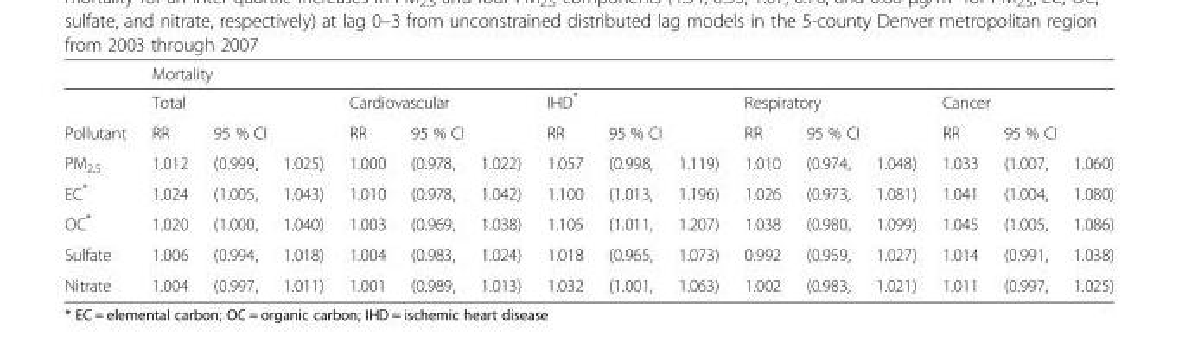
<table><thead><tr><td rowspan="4">Pollutant PM<sub>2.5</sub></td><td colspan="15">Mortality</td></tr><tr><td colspan="3">Total</td><td colspan="3">Cardiovascular</td><td colspan="3">IHD*</td><td colspan="3">Respiratory</td><td colspan="3">Cancer</td></tr><tr><td rowspan="2">RR 1.012</td><td colspan="2">95 % CI</td><td rowspan="2">RR 1.000</td><td colspan="2">95 % CI</td><td rowspan="2">RR 1.057</td><td colspan="2">95 % CI</td><td rowspan="2">RR 1.010</td><td colspan="2">95 % CI</td><td rowspan="2">RR 1.033</td><td colspan="2">95 % CI</td></tr><tr><td>(0.999,</td><td>1.025)</td><td>(0.978,</td><td>1.022)</td><td>(0.998,</td><td>1.119)</td><td>(0.974,</td><td>1.048)</td><td>(1.007,</td><td>1.060)</td></tr></thead><tbody><tr><td>EC*</td><td>1.024</td><td>(1.005,</td><td>1.043)</td><td>1.010</td><td>(0.978,</td><td>1.042)</td><td>1.100</td><td>(1.013,</td><td>1.196)</td><td>1.026</td><td>(0.973,</td><td>1.081)</td><td>1.041</td><td>(1.004,</td><td>1.080)</td></tr><tr><td>OC*</td><td>1.020</td><td>(1.000,</td><td>1.040)</td><td>1.003</td><td>(0.969,</td><td>1.038)</td><td>1.105</td><td>(1.011,</td><td>1.207)</td><td>1.038</td><td>(0.980,</td><td>1.099)</td><td>1.045</td><td>(1.005,</td><td>1.086)</td></tr><tr><td>Sulfate</td><td>1.006</td><td>(0.994,</td><td>1.018)</td><td>1.004</td><td>(0.983,</td><td>1.024)</td><td>1.018</td><td>(0.965,</td><td>1.073)</td><td>0.992</td><td>(0.959,</td><td>1.027)</td><td>1.014</td><td>(0.991,</td><td>1.038)</td></tr><tr><td>Nitrate</td><td>1.004</td><td>(0.997,</td><td>1.011)</td><td>1.001</td><td>(0.989,</td><td>1.013)</td><td>1.032</td><td>(1.001,</td><td>1.063)</td><td>1.002</td><td>(0.983,</td><td>1.021)</td><td>1.011</td><td>(0.997,</td><td>1.025)</td></tr></tbody></table>